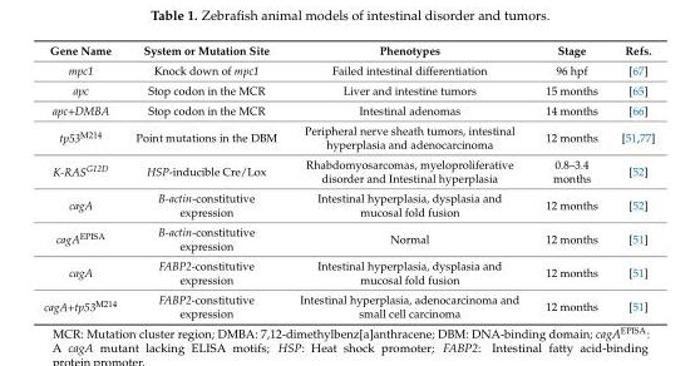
<table><thead><tr><td>Gene Name</td><td>System or Mutation Site</td><td>Phenotypes</td><td>Stage</td><td>Refs.</td></tr></thead><tbody><tr><td>mpc1</td><td>Knock down of mpc1</td><td>Failed intestinal differentiation</td><td>96 hpf</td><td>[67]</td></tr><tr><td>apc</td><td>Stop codon in the MCR</td><td>Liver and intestine tumors</td><td>15 months</td><td>[65]</td></tr><tr><td>apc+DMBA</td><td>Stop codon in the MCR</td><td>Intestinal adenomas</td><td>14 months</td><td>[66]</td></tr><tr><td>tp53<sup>M214</sup></td><td>Point mutations in the DBM</td><td>Peripheral nerve sheath tumors, intestinal hyperplasia and adenocarcinoma</td><td>12 months</td><td>[51,77]</td></tr><tr><td>K-RAS<sup>G12D</sup></td><td>HSP-inducible Cre/Lox</td><td>Rhabdomyosarcomas, myeloproliferative disorder and Intestinal hyperplasia</td><td>0.8–3.4 months</td><td>[52]</td></tr><tr><td>cagA</td><td>B-actin-constitutive expression</td><td>Intestinal hyperplasia, dysplasia and mucosal fold fusion</td><td>12 months</td><td>[52]</td></tr><tr><td>cagA<sup>EPISA</sup></td><td>B-actin-constitutive expression</td><td>Normal</td><td>12 months</td><td>[51]</td></tr><tr><td>cagA</td><td>FABP2-constitutive expression</td><td>Intestinal hyperplasia, dysplasia and mucosal fold fusion</td><td>12 months</td><td>[51]</td></tr><tr><td>cagA+tp53<sup>M214</sup></td><td>FABP2-constitutive expression</td><td>Intestinal hyperplasia, adenocarcinoma and small cell carcinoma</td><td>12 months</td><td>[51]</td></tr></tbody></table>